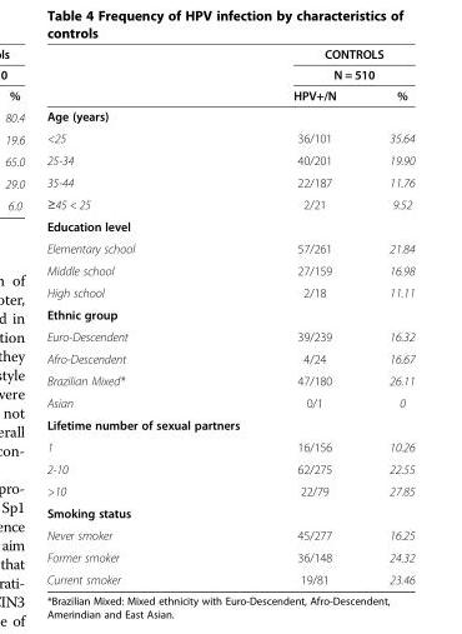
<table><thead><tr><td rowspan="3"></td><td rowspan="2" colspan="2">CONTROLS N = 510</td></tr><tr></tr><tr><td>HPV+/N</td><td>%</td></tr></thead><tbody><tr><td colspan="3">Age (years)</td></tr><tr><td>&lt;25</td><td>36/101</td><td>35.64</td></tr><tr><td>25-34</td><td>40/201</td><td>19.90</td></tr><tr><td>35-44</td><td>22/187</td><td>11.76</td></tr><tr><td>≥45 &lt; 25</td><td>2/21</td><td>9.52</td></tr><tr><td colspan="3">Education level</td></tr><tr><td>Elementary school</td><td>57/261</td><td>21.84</td></tr><tr><td>Middle school</td><td>27/159</td><td>16.98</td></tr><tr><td>High school</td><td>2/18</td><td>11.11</td></tr><tr><td colspan="3">Ethnic group</td></tr><tr><td>Euro-Descendent</td><td>39/239</td><td>16.32</td></tr><tr><td>Afro-Descendent</td><td>4/24</td><td>16.67</td></tr><tr><td>Brazilian Mixed*</td><td>47/180</td><td>26.11</td></tr><tr><td>Asian</td><td>0/1</td><td>0</td></tr><tr><td colspan="3">Lifetime number of sexual partners</td></tr><tr><td>1</td><td>16/156</td><td>10.26</td></tr><tr><td>2-10</td><td>62/275</td><td>22.55</td></tr><tr><td>&gt;10</td><td>22/79</td><td>27.85</td></tr><tr><td colspan="3">Smoking status</td></tr><tr><td>Never smoker</td><td>45/277</td><td>16.25</td></tr><tr><td>Former smoker</td><td>36/148</td><td>24.32</td></tr><tr><td>Current smoker</td><td>19/81</td><td>23.46</td></tr></tbody></table>